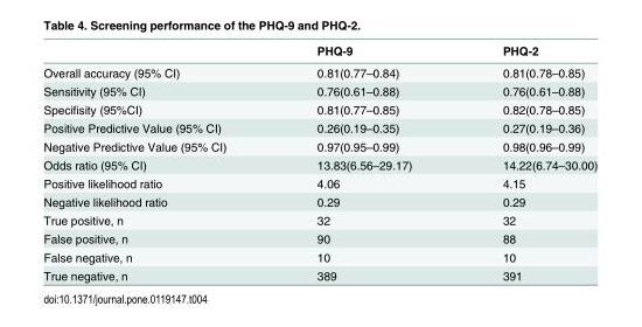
<table><thead><tr><td></td><td>PHQ-9</td><td>PHQ-2</td></tr></thead><tbody><tr><td>Overall accuracy (95% CI)</td><td>0.81(0.77–0.84)</td><td>0.81(0.78–0.85)</td></tr><tr><td>Sensitivity (95% CI)</td><td>0.76(0.61–0.88)</td><td>0.76(0.61–0.88)</td></tr><tr><td>Specifisity (95%CI)</td><td>0.81(0.77–0.85)</td><td>0.82(0.78–0.85)</td></tr><tr><td>Positive Predictive Value (95% CI)</td><td>0.26(0.19–0.35)</td><td>0.27(0.19–0.36)</td></tr><tr><td>Negative Predictive Value (95% CI)</td><td>0.97(0.95–0.99)</td><td>0.98(0.96–0.99)</td></tr><tr><td>Odds ratio (95% CI)</td><td>13.83(6.56–29.17)</td><td>14.22(6.74–30.00)</td></tr><tr><td>Positive likelihood ratio</td><td>4.06</td><td>4.15</td></tr><tr><td>Negative likelihood ratio</td><td>0.29</td><td>0.29</td></tr><tr><td>True positive, n</td><td>32</td><td>32</td></tr><tr><td>False positive, n</td><td>90</td><td>88</td></tr><tr><td>False negative, n</td><td>10</td><td>10</td></tr><tr><td>True negative, n</td><td>389</td><td>391</td></tr></tbody></table>